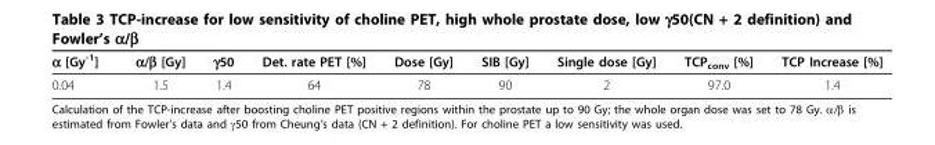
<table><thead><tr><td>α [Gy<sup>-1</sup>]</td><td>α/β [Gy]</td><td>γ50</td><td>Det. rate PET [%]</td><td>Dose [Gy]</td><td>SIB [Gy]</td><td>Single dose [Gy]</td><td>TCP<sub>conv</sub> [%]</td><td>TCP Increase [%]</td></tr></thead><tbody><tr><td>0.04</td><td>1.5</td><td>1.4</td><td>64</td><td>78</td><td>90</td><td>2</td><td>97.0</td><td>1.4</td></tr></tbody></table>